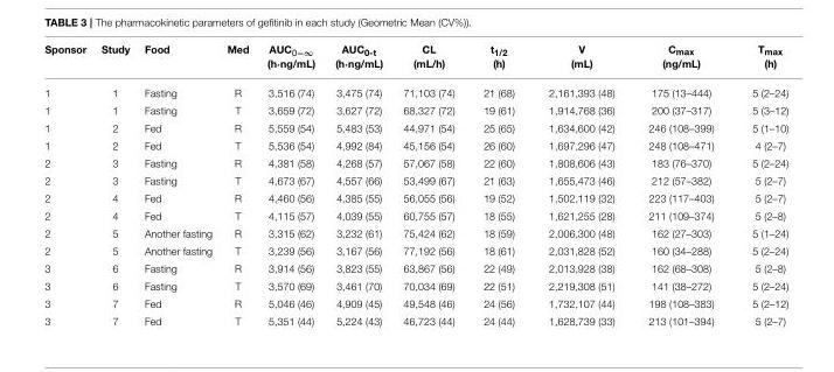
<table><thead><tr><td>Sponsor</td><td>Study</td><td>Food</td><td>Med</td><td>AUC<sub>0−∞</sub> (h·ng/mL)</td><td>AUC<sub>0-t</sub> (h·ng/mL)</td><td>CL (mL/h)</td><td>t<sub>1/2</sub> (h)</td><td>V (mL)</td><td>C<sub>max</sub> (ng/mL)</td><td>T<sub>max</sub> (h)</td></tr></thead><tbody><tr><td>1</td><td>1</td><td>Fasting</td><td>R</td><td>3,516 (74)</td><td>3,475 (74)</td><td>71,103 (74)</td><td>21 (68)</td><td>2,161,393 (48)</td><td>175 (13–444)</td><td>5 (2–24)</td></tr><tr><td>1</td><td>1</td><td>Fasting</td><td>T</td><td>3,659 (72)</td><td>3,627 (72)</td><td>68,327 (72)</td><td>19 (61)</td><td>1,914,768 (36)</td><td>200 (37–317)</td><td>5 (3–12)</td></tr><tr><td>1</td><td>2</td><td>Fed</td><td>R</td><td>5,559 (54)</td><td>5,483 (53)</td><td>44,971 (54)</td><td>25 (65)</td><td>1,634,600 (42)</td><td>246 (108–399)</td><td>5 (1–10)</td></tr><tr><td>1</td><td>2</td><td>Fed</td><td>T</td><td>5,536 (54)</td><td>4,992 (84)</td><td>45,156 (54)</td><td>26 (60)</td><td>1,697,296 (47)</td><td>248 (108–471)</td><td>4 (2–7)</td></tr><tr><td>2</td><td>3</td><td>Fasting</td><td>R</td><td>4,381 (58)</td><td>4,268 (57)</td><td>57,067 (58)</td><td>22 (60)</td><td>1,808,606 (43)</td><td>183 (76–370)</td><td>5 (2–24)</td></tr><tr><td>2</td><td>3</td><td>Fasting</td><td>T</td><td>4,673 (67)</td><td>4,557 (66)</td><td>53,499 (67)</td><td>21 (63)</td><td>1,655,473 (46)</td><td>212 (57–382)</td><td>5 (2–7)</td></tr><tr><td>2</td><td>4</td><td>Fed</td><td>R</td><td>4,460 (56)</td><td>4,385 (55)</td><td>56,055 (56)</td><td>19 (52)</td><td>1,502,119 (32)</td><td>223 (117–403)</td><td>5 (2–7)</td></tr><tr><td>2</td><td>4</td><td>Fed</td><td>T</td><td>4,115 (57)</td><td>4,039 (55)</td><td>60,755 (57)</td><td>18 (55)</td><td>1,621,255 (28)</td><td>211 (109–374)</td><td>5 (2–8)</td></tr><tr><td>2</td><td>5</td><td>Another fasting</td><td>R</td><td>3,315 (62)</td><td>3,232 (61)</td><td>75,424 (62)</td><td>18 (59)</td><td>2,006,300 (48)</td><td>162 (27–303)</td><td>5 (1–24)</td></tr><tr><td>2</td><td>5</td><td>Another fasting</td><td>T</td><td>3,239 (56)</td><td>3,167 (56)</td><td>77,192 (56)</td><td>18 (61)</td><td>2,031,828 (52)</td><td>160 (34–288)</td><td>5 (2–24)</td></tr><tr><td>3</td><td>6</td><td>Fasting</td><td>R</td><td>3,914 (56)</td><td>3,823 (55)</td><td>63,867 (56)</td><td>22 (49)</td><td>2,013,928 (38)</td><td>162 (68–308)</td><td>5 (2–8)</td></tr><tr><td>3</td><td>6</td><td>Fasting</td><td>T</td><td>3,570 (69)</td><td>3,461 (70)</td><td>70,034 (69)</td><td>22 (51)</td><td>2,219,308 (51)</td><td>141 (38–272)</td><td>5 (2–24)</td></tr><tr><td>3</td><td>7</td><td>Fed</td><td>R</td><td>5,046 (46)</td><td>4,909 (45)</td><td>49,548 (46)</td><td>24 (56)</td><td>1,732,107 (44)</td><td>198 (108–383)</td><td>5 (2–12)</td></tr><tr><td>3</td><td>7</td><td>Fed</td><td>T</td><td>5,351 (44)</td><td>5,224 (43)</td><td>46,723 (44)</td><td>24 (44)</td><td>1,628,739 (33)</td><td>213 (101–394)</td><td>5 (2–7)</td></tr></tbody></table>